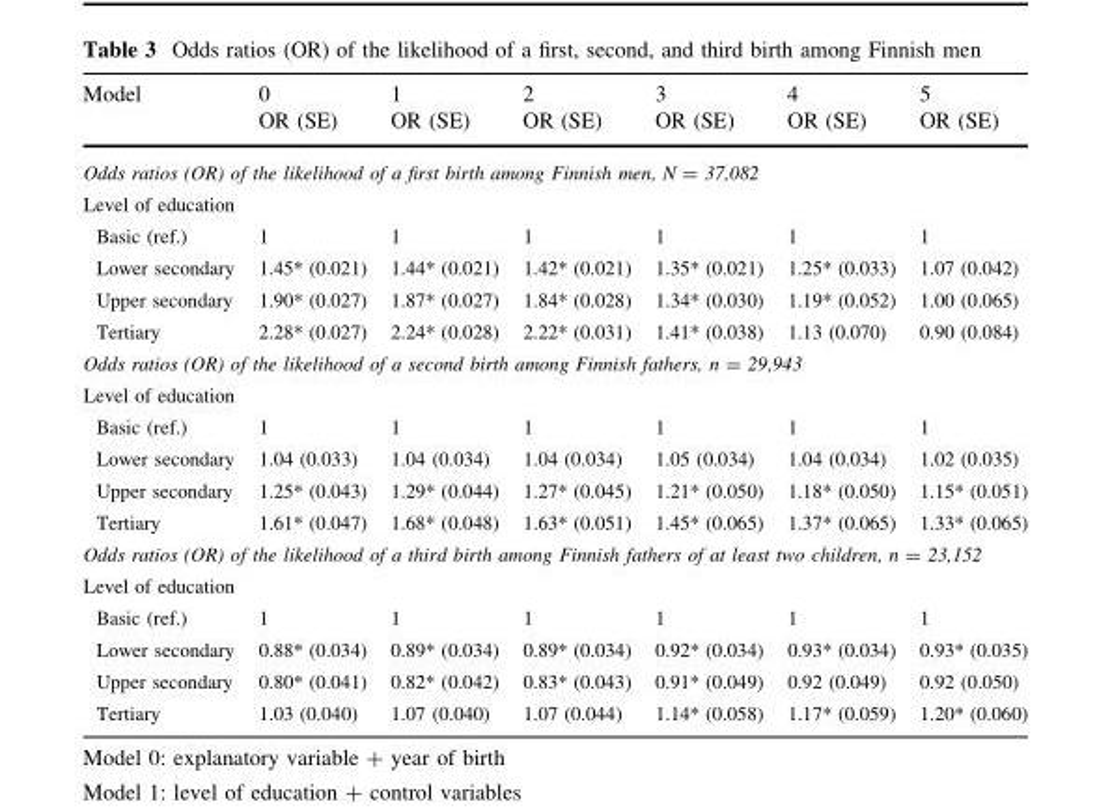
<table><thead><tr><td rowspan="2">Model</td><td rowspan="2">0 OR (SE)</td><td rowspan="2">1 OR (SE)</td><td rowspan="2">2 OR (SE)</td><td rowspan="2">3 OR (SE)</td><td rowspan="2">4 OR (SE)</td><td rowspan="2">5 OR (SE)</td></tr><tr></tr></thead><tbody><tr><td colspan="7">Odds ratios (OR) of the likelihood of a first birth among Finnish men, N = 37,082</td></tr><tr><td colspan="7">Level of education</td></tr><tr><td>Basic (ref.)</td><td>1</td><td>1</td><td>1</td><td>1</td><td>1</td><td>1</td></tr><tr><td>Lower secondary</td><td>1.45* (0.021)</td><td>1.44* (0.021)</td><td>1.42* (0.021)</td><td>1.35* (0.021)</td><td>1.25* (0.033)</td><td>1.07 (0.042)</td></tr><tr><td>Upper secondary</td><td>1.90* (0.027)</td><td>1.87* (0.027)</td><td>1.84* (0.028)</td><td>1.34* (0.030)</td><td>1.19* (0.052)</td><td>1.00 (0.065)</td></tr><tr><td>Tertiary</td><td>2.28* (0.027)</td><td>2.24* (0.028)</td><td>2.22* (0.031)</td><td>1.41* (0.038)</td><td>1.13 (0.070)</td><td>0.90 (0.084)</td></tr><tr><td colspan="7">Odds ratios (OR) of the likelihood of a second birth among Finnish fathers, n = 29,943</td></tr><tr><td colspan="7">Level of education</td></tr><tr><td>Basic (ref.)</td><td>1</td><td>1</td><td>1</td><td>1</td><td>1</td><td>1</td></tr><tr><td>Lower secondary</td><td>1.04 (0.033)</td><td>1.04 (0.034)</td><td>1.04 (0.034)</td><td>1.05 (0.034)</td><td>1.04 (0.034)</td><td>1.02 (0.035)</td></tr><tr><td>Upper secondary</td><td>1.25* (0.043)</td><td>1.29* (0.044)</td><td>1.27* (0.045)</td><td>1.21* (0.050)</td><td>1.18* (0.050)</td><td>1.15* (0.051)</td></tr><tr><td>Tertiary</td><td>1.61* (0.047)</td><td>1.68* (0.048)</td><td>1.63* (0.051)</td><td>1.45* (0.065)</td><td>1.37* (0.065)</td><td>1.33* (0.065)</td></tr><tr><td colspan="7">Odds ratios (OR) of the likelihood of a third birth among Finnish fathers of at least two children, n = 23,152</td></tr><tr><td colspan="7">Level of education</td></tr><tr><td>Basic (ref.)</td><td>1</td><td>1</td><td>1</td><td>1</td><td>1</td><td>1</td></tr><tr><td>Lower secondary</td><td>0.88* (0.034)</td><td>0.89* (0.034)</td><td>0.89* (0.034)</td><td>0.92* (0.034)</td><td>0.93* (0.034)</td><td>0.93* (0.035)</td></tr><tr><td>Upper secondary</td><td>0.80* (0.041)</td><td>0.82* (0.042)</td><td>0.83* (0.043)</td><td>0.91* (0.049)</td><td>0.92 (0.049)</td><td>0.92 (0.050)</td></tr><tr><td>Tertiary</td><td>1.03 (0.040)</td><td>1.07 (0.040)</td><td>1.07 (0.044)</td><td>1.14* (0.058)</td><td>1.17* (0.059)</td><td>1.20* (0.060)</td></tr></tbody></table>